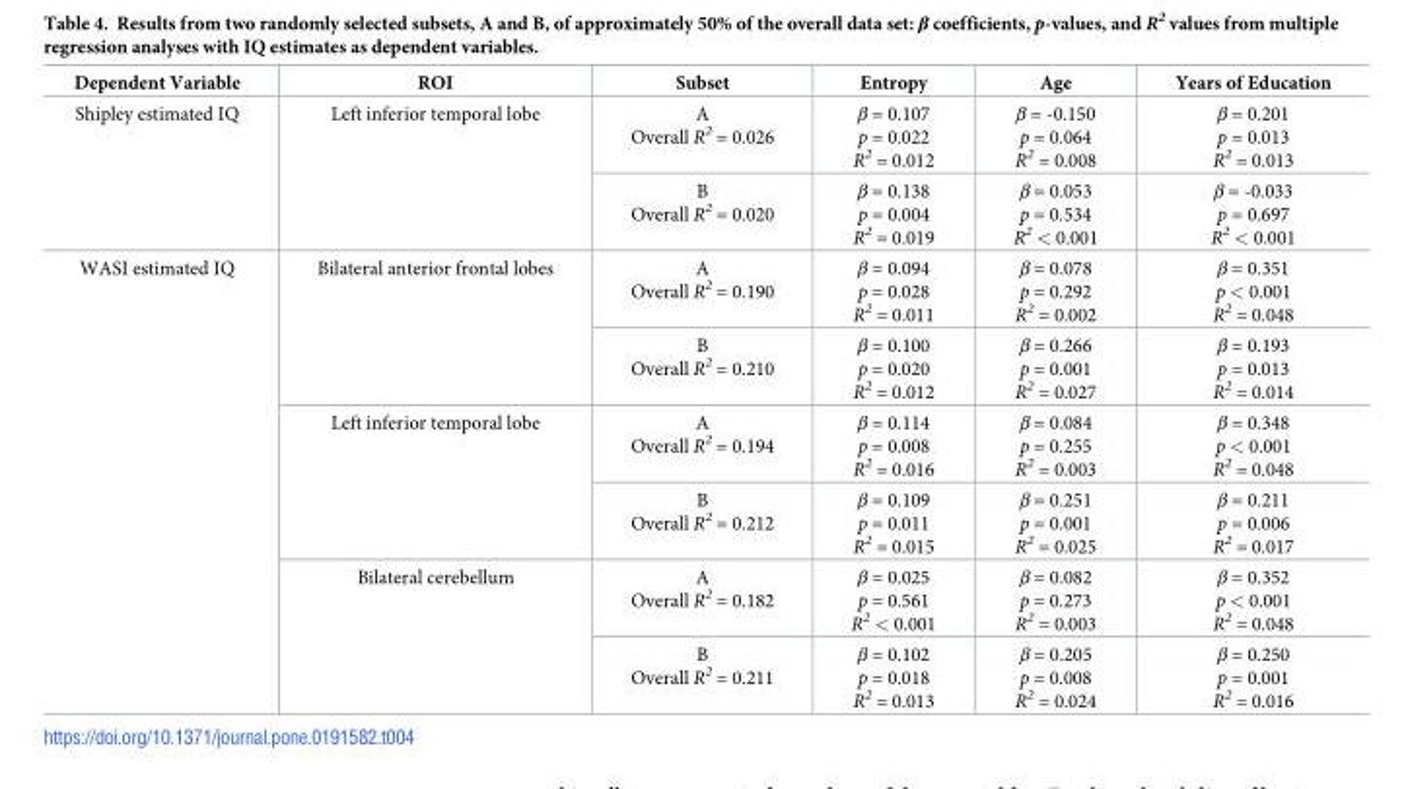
<table><thead><tr><td>Dependent Variable</td><td>ROI</td><td>Subset</td><td>Entropy</td><td>Age</td><td>Years of Education</td></tr></thead><tbody><tr><td rowspan="2">Shipley estimated IQ</td><td rowspan="2">Left inferior temporal lobe</td><td>A Overall R<sup>2</sup> = 0.026</td><td>β = 0.107 p = 0.022 R<sup>2</sup> = 0.012</td><td>β = -0.150 p = 0.064 R<sup>2</sup> = 0.008</td><td>β = 0.201 p = 0.013 R<sup>2</sup> = 0.013</td></tr><tr><td>B Overall R<sup>2</sup> = 0.020</td><td>β = 0.138 p = 0.004 R<sup>2</sup> = 0.019</td><td>β = 0.053 p = 0.534 R<sup>2</sup> &lt; 0.001</td><td>β = -0.033 p = 0.697 R<sup>2</sup> &lt; 0.001</td></tr><tr><td rowspan="6">WASI estimated IQ</td><td rowspan="2">Bilateral anterior frontal lobes</td><td>A Overall R<sup>2</sup> = 0.190</td><td>β = 0.094 p = 0.028 R<sup>2</sup> = 0.011</td><td>β = 0.078 p = 0.292 R<sup>2</sup> = 0.002</td><td>β = 0.351 p &lt; 0.001 R<sup>2</sup> = 0.048</td></tr><tr><td>B Overall R<sup>2</sup> = 0.210</td><td>β = 0.100 p = 0.020 R<sup>2</sup> = 0.012</td><td>β = 0.266 p = 0.001 R<sup>2</sup> = 0.027</td><td>β = 0.193 p = 0.013 R<sup>2</sup> = 0.014</td></tr><tr><td rowspan="2">Left inferior temporal lobe</td><td>A Overall R<sup>2</sup> = 0.194</td><td>β = 0.114 p = 0.008 R<sup>2</sup> = 0.016</td><td>β = 0.084 p = 0.255 R<sup>2</sup> = 0.003</td><td>β = 0.348 p &lt; 0.001 R<sup>2</sup> = 0.048</td></tr><tr><td>B Overall R<sup>2</sup> = 0.212</td><td>β = 0.109 p = 0.011 R<sup>2</sup> = 0.015</td><td>β = 0.251 p = 0.001 R<sup>2</sup> = 0.025</td><td>β = 0.211 p = 0.006 R<sup>2</sup> = 0.017</td></tr><tr><td rowspan="2">Bilateral cerebellum</td><td>A Overall R<sup>2</sup> = 0.182</td><td>β = 0.025 p = 0.561 R<sup>2</sup> &lt; 0.001</td><td>β = 0.082 p = 0.273 R<sup>2</sup> = 0.003</td><td>β = 0.352 p &lt; 0.001 R<sup>2</sup> = 0.048</td></tr><tr><td>B Overall R<sup>2</sup> = 0.211</td><td>β = 0.102 p = 0.018 R<sup>2</sup> = 0.013</td><td>β = 0.205 p = 0.008 R<sup>2</sup> = 0.024</td><td>β = 0.250 p = 0.001 R<sup>2</sup> = 0.016</td></tr></tbody></table>